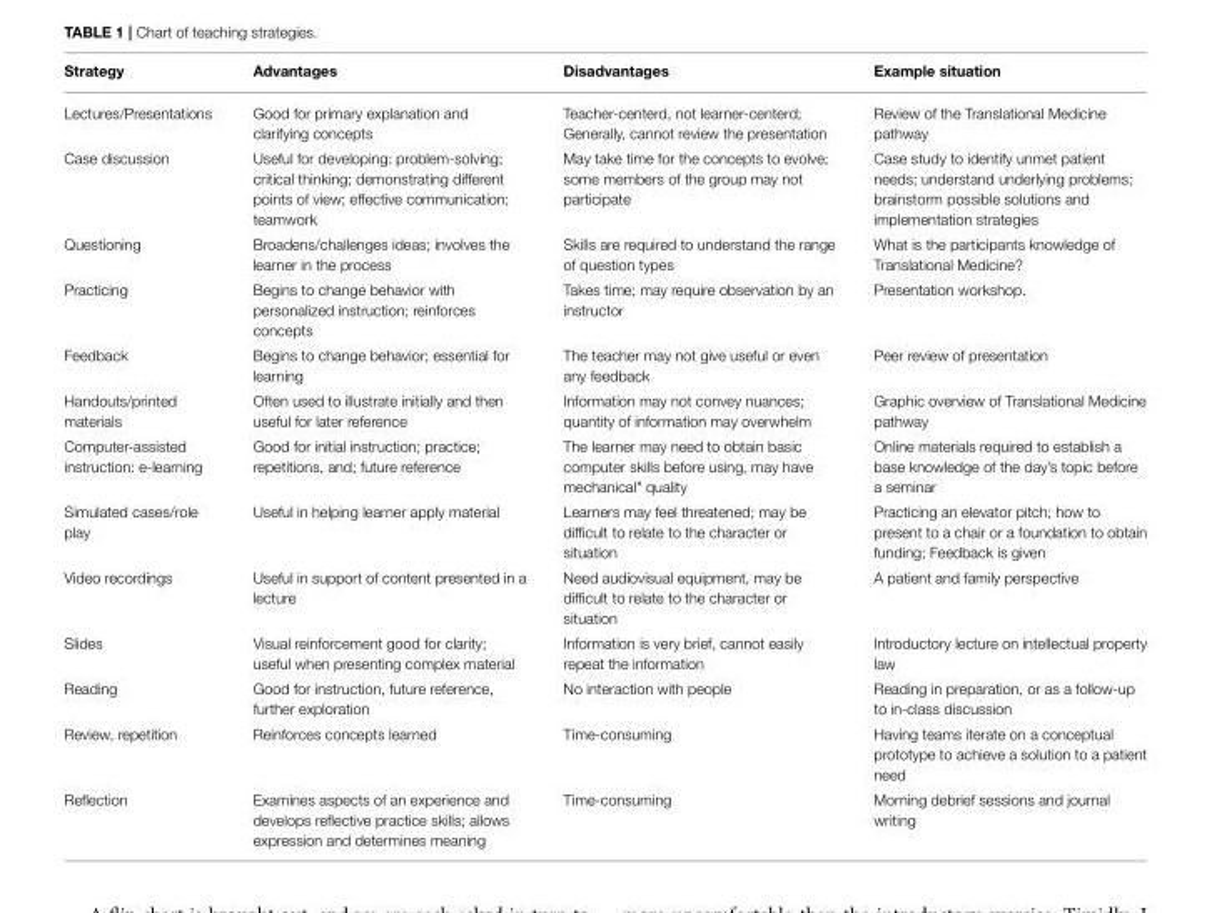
<table><thead><tr><td>Strategy</td><td>Advantages</td><td>Disadvantages</td><td>Example situation</td></tr></thead><tbody><tr><td>Lectures/Presentations</td><td>Good for primary explanation and clarifying concepts</td><td>Teacher-centerd, not learner-centerd; Generally, cannot review the presentation</td><td>Review of the Translational Medicine pathway</td></tr><tr><td>Case discussion</td><td>Useful for developing: problem-solving; critical thinking; demonstrating different points of view; effective communication; teamwork</td><td>May take time for the concepts to evolve; some members of the group may not participate</td><td>Case study to identify unmet patient needs; understand underlying problems; brainstorm possible solutions and implementation strategies</td></tr><tr><td>Questioning</td><td>Broadens/challenges ideas; involves the learner in the process</td><td>Skills are required to understand the range of question types</td><td>What is the participants knowledge of Translational Medicine?</td></tr><tr><td>Practicing</td><td>Begins to change behavior with personalized instruction; reinforces concepts</td><td>Takes time; may require observation by an instructor</td><td>Presentation workshop.</td></tr><tr><td>Feedback</td><td>Begins to change behavior; essential for learning</td><td>The teacher may not give useful or even any feedback</td><td>Peer review of presentation</td></tr><tr><td>Handouts/printed materials</td><td>Often used to illustrate initially and then useful for later reference</td><td>Information may not convey nuances; quantity of information may overwhelm</td><td>Graphic overview of Translational Medicine pathway</td></tr><tr><td>Computer-assisted instruction: e-learning</td><td>Good for initial instruction; practice; repetitions, and; future reference</td><td>The learner may need to obtain basic computer skills before using, may have mechanical&quot; quality</td><td>Online materials required to establish a base knowledge of the day’s topic before a seminar</td></tr><tr><td>Simulated cases/role play</td><td>Useful in helping learner apply material</td><td>Learners may feel threatened; may be difficult to relate to the character or situation</td><td>Practicing an elevator pitch; how to present to a chair or a foundation to obtain funding; Feedback is given</td></tr><tr><td>Video recordings</td><td>Useful in support of content presented in a lecture</td><td>Need audiovisual equipment, may be difficult to relate to the character or situation</td><td>A patient and family perspective</td></tr><tr><td>Slides</td><td>Visual reinforcement good for clarity; useful when presenting complex material</td><td>Information is very brief, cannot easily repeat the information</td><td>Introductory lecture on intellectual property law</td></tr><tr><td>Reading</td><td>Good for instruction, future reference, further exploration</td><td>No interaction with people</td><td>Reading in preparation, or as a follow-up to in-class discussion</td></tr><tr><td>Review, repetition</td><td>Reinforces concepts learned</td><td>Time-consuming</td><td>Having teams iterate on a conceptual prototype to achieve a solution to a patient need</td></tr><tr><td>Reflection</td><td>Examines aspects of an experience and develops reflective practice skills; allows expression and determines meaning</td><td>Time-consuming</td><td>Morning debrief sessions and journal writing</td></tr></tbody></table>